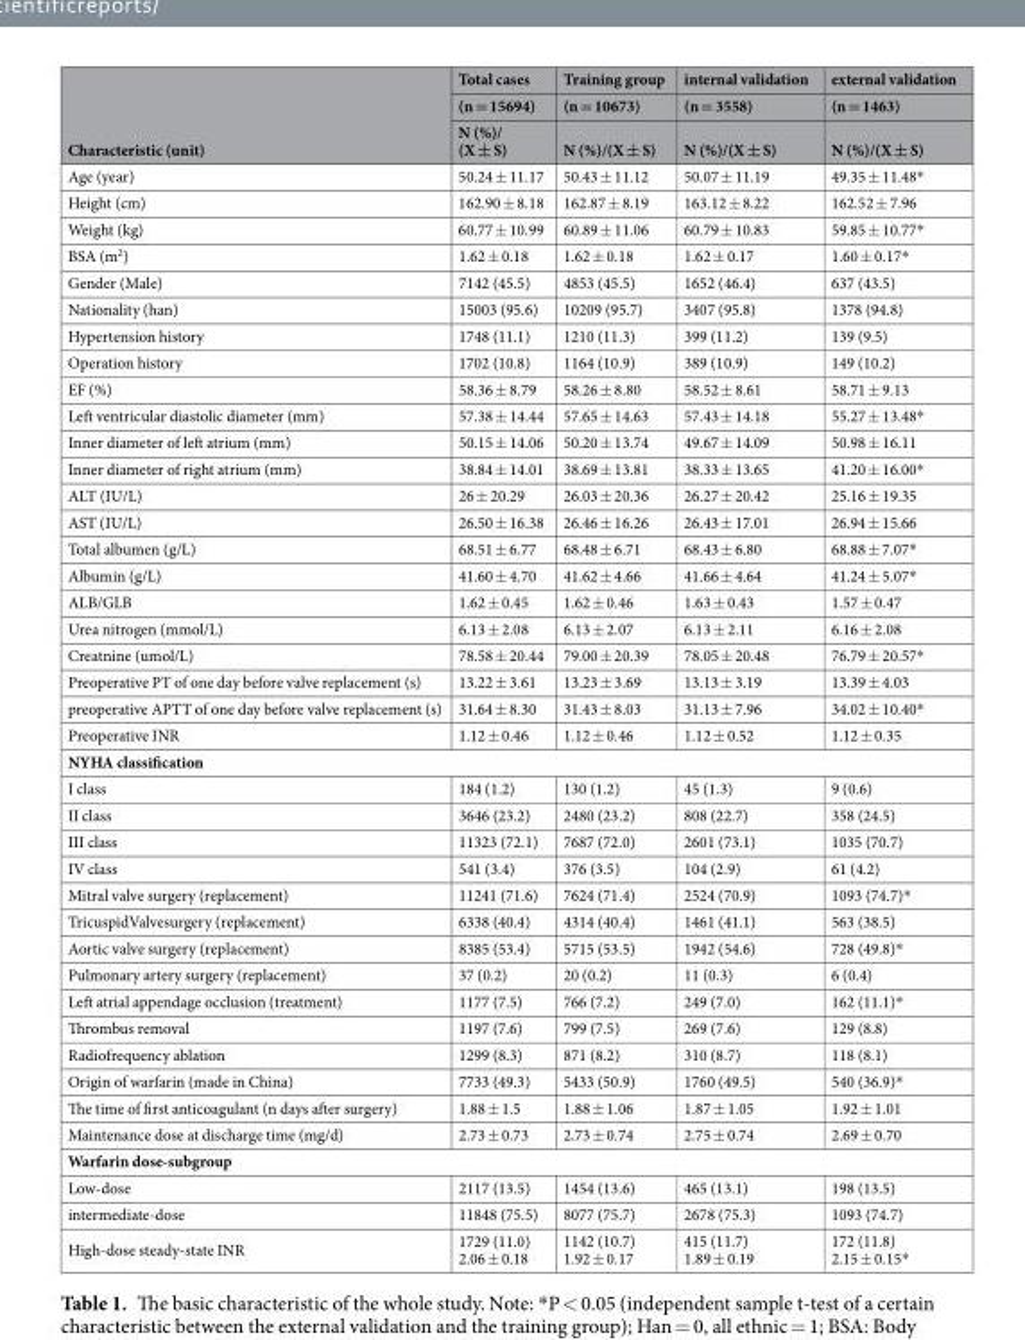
<table><thead><tr><td rowspan="3">Characteristic (unit)</td><td rowspan="3">Total cases (n = 15694) N (%)/ (X ± S)</td><td rowspan="3">Training group (n = 10673) N (%)/(X ± S)</td><td rowspan="3">internal validation (n = 3558) N (%)/(X ± S)</td><td rowspan="3">external validation (n = 1463) N (%)/(X ± S)</td></tr><tr></tr><tr></tr></thead><tbody><tr><td>Age (year)</td><td>50.24 ± 11.17</td><td>50.43 ± 11.12</td><td>50.07 ± 11.19</td><td>49.35 ± 11.48*</td></tr><tr><td>Height (cm)</td><td>162.90 ± 8.18</td><td>162.87 ± 8.19</td><td>163.12 ± 8.22</td><td>162.52 ± 7.96</td></tr><tr><td>Weight (kg)</td><td>60.77 ± 10.99</td><td>60.89 ± 11.06</td><td>60.79 ± 10.83</td><td>59.85 ± 10.77*</td></tr><tr><td>BSA (m<sup>2</sup>)</td><td>1.62 ± 0.18</td><td>1.62 ± 0.18</td><td>1.62 ± 0.17</td><td>1.60 ± 0.17*</td></tr><tr><td>Gender (Male)</td><td>7142 (45.5)</td><td>4853 (45.5)</td><td>1652 (46.4)</td><td>637 (43.5)</td></tr><tr><td>Nationality (han)</td><td>15003 (95.6)</td><td>10209 (95.7)</td><td>3407 (95.8)</td><td>1378 (94.8)</td></tr><tr><td>Hypertension history</td><td>1748 (11.1)</td><td>1210 (11.3)</td><td>399 (11.2)</td><td>139 (9.5)</td></tr><tr><td>Operation history</td><td>1702 (10.8)</td><td>1164 (10.9)</td><td>389 (10.9)</td><td>149 (10.2)</td></tr><tr><td>EF (%)</td><td>58.36 ± 8.79</td><td>58.26 ± 8.80</td><td>58.52 ± 8.61</td><td>58.71 ± 9.13</td></tr><tr><td>Left ventricular diastolic diameter (mm)</td><td>57.38 ± 14.44</td><td>57.65 ± 14.63</td><td>57.43 ± 14.18</td><td>55.27 ± 13.48*</td></tr><tr><td>Inner diameter of left atrium (mm)</td><td>50.15 ± 14.06</td><td>50.20 ± 13.74</td><td>49.67 ± 14.09</td><td>50.98 ± 16.11</td></tr><tr><td>Inner diameter of right atrium (mm)</td><td>38.84 ± 14.01</td><td>38.69 ± 13.81</td><td>38.33 ± 13.65</td><td>41.20 ± 16.00*</td></tr><tr><td>ALT (IU/L)</td><td>26 ± 20.29</td><td>26.03 ± 20.36</td><td>26.27 ± 20.42</td><td>25.16 ± 19.35</td></tr><tr><td>AST (IU/L)</td><td>26.50 ± 16.38</td><td>26.46 ± 16.26</td><td>26.43 ± 17.01</td><td>26.94 ± 15.66</td></tr><tr><td>Total albumen (g/L)</td><td>68.51 ± 6.77</td><td>68.48 ± 6.71</td><td>68.43 ± 6.80</td><td>68.88 ± 7.07*</td></tr><tr><td>Albumin (g/L)</td><td>41.60 ± 4.70</td><td>41.62 ± 4.66</td><td>41.66 ± 4.64</td><td>41.24 ± 5.07*</td></tr><tr><td>ALB/GLB</td><td>1.62 ± 0.45</td><td>1.62 ± 0.46</td><td>1.63 ± 0.43</td><td>1.57 ± 0.47</td></tr><tr><td>Urea nitrogen (mmol/L)</td><td>6.13 ± 2.08</td><td>6.13 ± 2.07</td><td>6.13 ± 2.11</td><td>6.16 ± 2.08</td></tr><tr><td>Creatnine (umol/L)</td><td>78.58 ± 20.44</td><td>79.00 ± 20.39</td><td>78.05 ± 20.48</td><td>76.79 ± 20.57*</td></tr><tr><td>Preoperative PT of one day before valve replacement (s)</td><td>13.22 ± 3.61</td><td>13.23 ± 3.69</td><td>13.13 ± 3.19</td><td>13.39 ± 4.03</td></tr><tr><td>preoperative APTT of one day before valve replacement (s)</td><td>31.64 ± 8.30</td><td>31.43 ± 8.03</td><td>31.13 ± 7.96</td><td>34.02 ± 10.40*</td></tr><tr><td>Preoperative INR</td><td>1.12 ± 0.46</td><td>1.12 ± 0.46</td><td>1.12 ± 0.52</td><td>1.12 ± 0.35</td></tr><tr><td colspan="5">NYHA classification</td></tr><tr><td>I class</td><td>184 (1.2)</td><td>130 (1.2)</td><td>45 (1.3)</td><td>9 (0.6)</td></tr><tr><td>II class</td><td>3646 (23.2)</td><td>2480 (23.2)</td><td>808 (22.7)</td><td>358 (24.5)</td></tr><tr><td>III class</td><td>11323 (72.1)</td><td>7687 (72.0)</td><td>2601 (73.1)</td><td>1035 (70.7)</td></tr><tr><td>IV class</td><td>541 (3.4)</td><td>376 (3.5)</td><td>104 (2.9)</td><td>61 (4.2)</td></tr><tr><td>Mitral valve surgery (replacement)</td><td>11241 (71.6)</td><td>7624 (71.4)</td><td>2524 (70.9)</td><td>1093 (74.7)*</td></tr><tr><td>TricuspidValvesurgery (replacement)</td><td>6338 (40.4)</td><td>4314 (40.4)</td><td>1461 (41.1)</td><td>563 (38.5)</td></tr><tr><td>Aortic valve surgery (replacement)</td><td>8385 (53.4)</td><td>5715 (53.5)</td><td>1942 (54.6)</td><td>728 (49.8)*</td></tr><tr><td>Pulmonary artery surgery (replacement)</td><td>37 (0.2)</td><td>20 (0.2)</td><td>11 (0.3)</td><td>6 (0.4)</td></tr><tr><td>Left atrial appendage occlusion (treatment)</td><td>1177 (7.5)</td><td>766 (7.2)</td><td>249 (7.0)</td><td>162 (11.1)*</td></tr><tr><td>Thrombus removal</td><td>1197 (7.6)</td><td>799 (7.5)</td><td>269 (7.6)</td><td>129 (8.8)</td></tr><tr><td>Radiofrequency ablation</td><td>1299 (8.3)</td><td>871 (8.2)</td><td>310 (8.7)</td><td>118 (8.1)</td></tr><tr><td>Origin of warfarin (made in China)</td><td>7733 (49.3)</td><td>5433 (50.9)</td><td>1760 (49.5)</td><td>540 (36.9)*</td></tr><tr><td>The time of first anticoagulant (n days after surgery)</td><td>1.88 ± 1.5</td><td>1.88 ± 1.06</td><td>1.87 ± 1.05</td><td>1.92 ± 1.01</td></tr><tr><td>Maintenance dose at discharge time (mg/d)</td><td>2.73 ± 0.73</td><td>2.73 ± 0.74</td><td>2.75 ± 0.74</td><td>2.69 ± 0.70</td></tr><tr><td colspan="5">Warfarin dose-subgroup</td></tr><tr><td>Low-dose</td><td>2117 (13.5)</td><td>1454 (13.6)</td><td>465 (13.1)</td><td>198 (13.5)</td></tr><tr><td>intermediate-dose</td><td>11848 (75.5)</td><td>8077 (75.7)</td><td>2678 (75.3)</td><td>1093 (74.7)</td></tr><tr><td>High-dose steady-state INR</td><td>1729 (11.0) 2.06 ± 0.18</td><td>1142 (10.7) 1.92 ± 0.17</td><td>415 (11.7) 1.89 ± 0.19</td><td>172 (11.8) 2.15 ± 0.15*</td></tr></tbody></table>